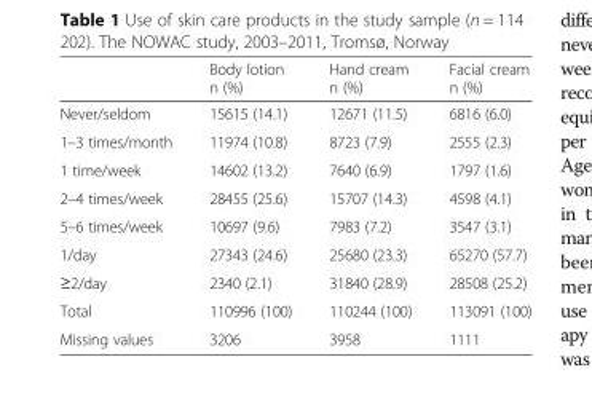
<table><thead><tr><td></td><td>Body lotion n (%)</td><td>Hand cream n (%)</td><td>Facial cream n (%)</td></tr></thead><tbody><tr><td>Never/seldom</td><td>15615 (14.1)</td><td>12671 (11.5)</td><td>6816 (6.0)</td></tr><tr><td>1–3 times/month</td><td>11974 (10.8)</td><td>8723 (7.9)</td><td>2555 (2.3)</td></tr><tr><td>1 time/week</td><td>14602 (13.2)</td><td>7640 (6.9)</td><td>1797 (1.6)</td></tr><tr><td>2–4 times/week</td><td>28455 (25.6)</td><td>15707 (14.3)</td><td>4598 (4.1)</td></tr><tr><td>5–6 times/week</td><td>10697 (9.6)</td><td>7983 (7.2)</td><td>3547 (3.1)</td></tr><tr><td>1/day</td><td>27343 (24.6)</td><td>25680 (23.3)</td><td>65270 (57.7)</td></tr><tr><td>≥2/day</td><td>2340 (2.1)</td><td>31840 (28.9)</td><td>28508 (25.2)</td></tr><tr><td>Total</td><td>110996 (100)</td><td>110244 (100)</td><td>113091 (100)</td></tr><tr><td>Missing values</td><td>3206</td><td>3958</td><td>1111</td></tr></tbody></table>